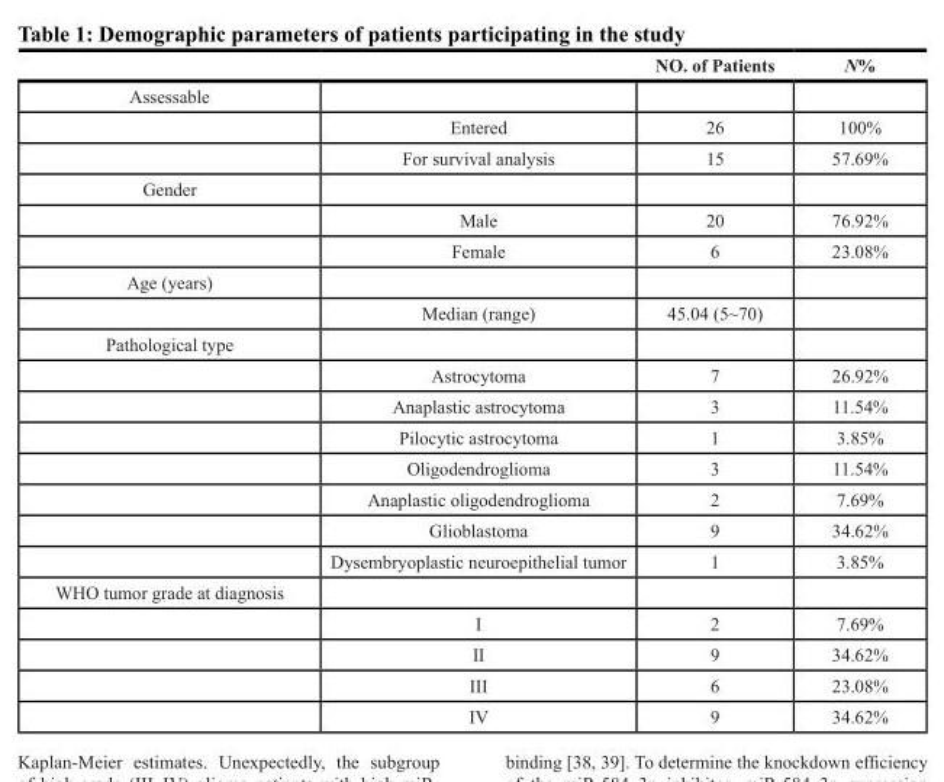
<table><thead><tr><td></td><td></td><td>NO. of Patients</td><td>N%</td></tr></thead><tbody><tr><td colspan="4">Assessable</td></tr><tr><td></td><td>Entered</td><td>26</td><td>100%</td></tr><tr><td></td><td>For survival analysis</td><td>15</td><td>57.69%</td></tr><tr><td colspan="4">Gender</td></tr><tr><td></td><td>Male</td><td>20</td><td>76.92%</td></tr><tr><td></td><td>Female</td><td>6</td><td>23.08%</td></tr><tr><td colspan="4">Age (years)</td></tr><tr><td></td><td>Median (range)</td><td>45.04 (5~70)</td><td></td></tr><tr><td colspan="4">Pathological type</td></tr><tr><td></td><td>Astrocytoma</td><td>7</td><td>26.92%</td></tr><tr><td></td><td>Anaplastic astrocytoma</td><td>3</td><td>11.54%</td></tr><tr><td></td><td>Pilocytic astrocytoma</td><td>1</td><td>3.85%</td></tr><tr><td></td><td>Oligodendroglioma</td><td>3</td><td>11.54%</td></tr><tr><td></td><td>Anaplastic oligodendroglioma</td><td>2</td><td>7.69%</td></tr><tr><td></td><td>Glioblastoma</td><td>9</td><td>34.62%</td></tr><tr><td></td><td>Dysembryoplastic neuroepithelial tumor</td><td>1</td><td>3.85%</td></tr><tr><td colspan="4">WHO tumor grade at diagnosis</td></tr><tr><td></td><td>I</td><td>2</td><td>7.69%</td></tr><tr><td></td><td>II</td><td>9</td><td>34.62%</td></tr><tr><td></td><td>III</td><td>6</td><td>23.08%</td></tr><tr><td></td><td>IV</td><td>9</td><td>34.62%</td></tr></tbody></table>